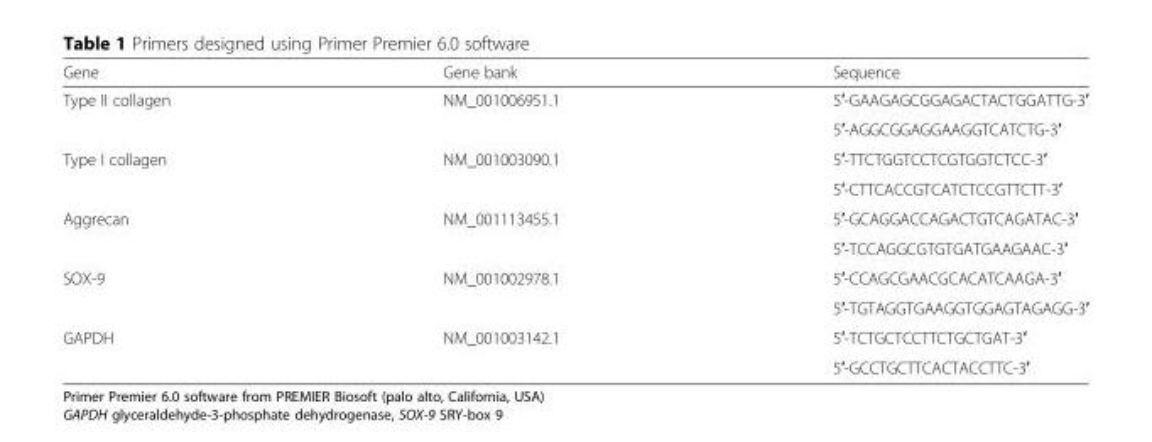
<table><thead><tr><td>Gene</td><td>Gene bank</td><td>Sequence</td></tr></thead><tbody><tr><td rowspan="2">Type II collagen</td><td rowspan="2">NM_001006951.1</td><td>5′-GAAGAGCGGAGACTACTGGATTG-3′</td></tr><tr><td>5′-AGGCGGAGGAAGGTCATCTG-3′</td></tr><tr><td rowspan="2">Type I collagen</td><td rowspan="2">NM_001003090.1</td><td>5′-TTCTGGTCCTCGTGGTCTCC-3′</td></tr><tr><td>5′-CTTCACCGTCATCTCCGTTCTT-3′</td></tr><tr><td rowspan="2">Aggrecan</td><td rowspan="2">NM_001113455.1</td><td>5′-GCAGGACCAGACTGTCAGATAC-3′</td></tr><tr><td>5′-TCCAGGCGTGTGATGAAGAAC-3′</td></tr><tr><td rowspan="2">SOX-9</td><td rowspan="2">NM_001002978.1</td><td>5′-CCAGCGAACGCACATCAAGA-3′</td></tr><tr><td>5′-TGTAGGTGAAGGTGGAGTAGAGG-3′</td></tr><tr><td rowspan="2">GAPDH</td><td rowspan="2">NM_001003142.1</td><td>5′-TCTGCTCCTTCTGCTGAT-3′</td></tr><tr><td>5′-GCCTGCTTCACTACCTTC-3′</td></tr></tbody></table>